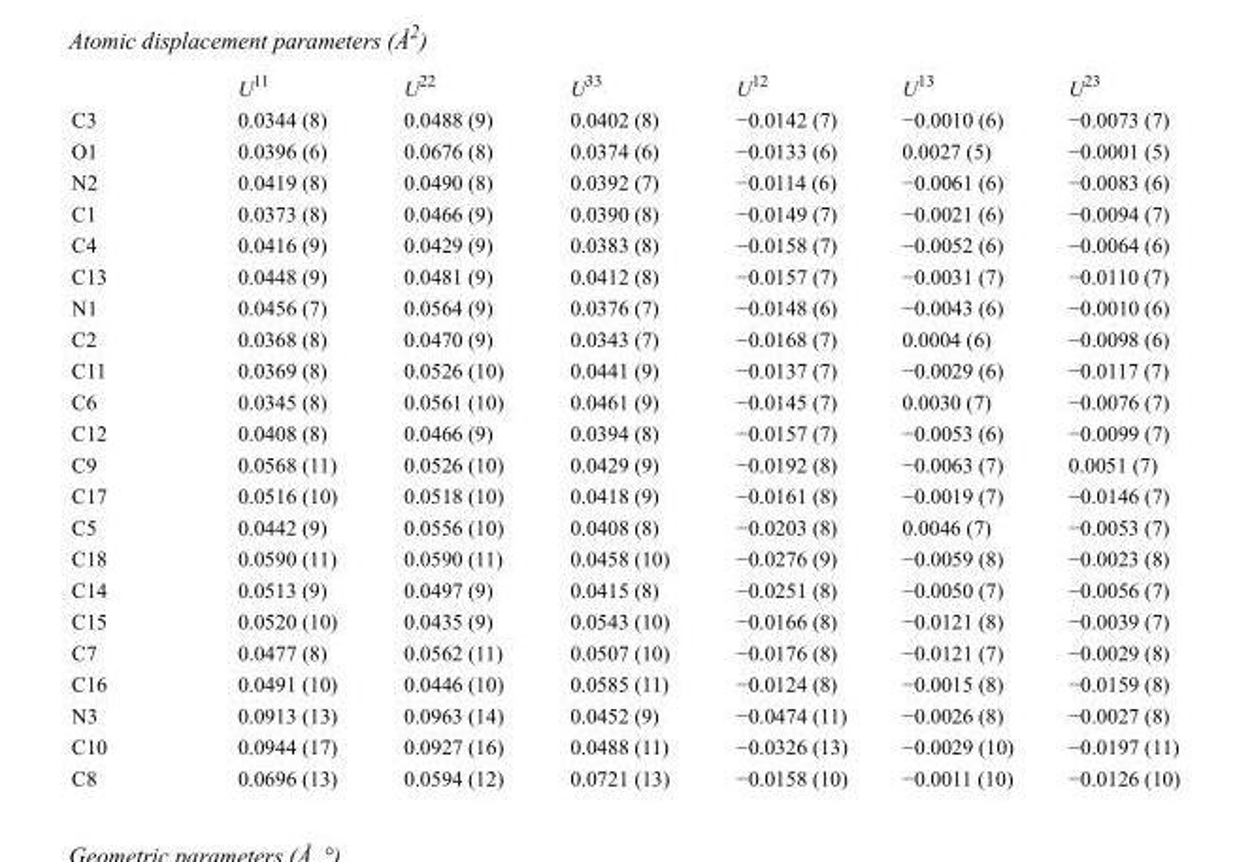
<table><thead><tr><td></td><td>U<sup>11</sup></td><td>U<sup>22</sup></td><td>U<sup>33</sup></td><td>U<sup>12</sup></td><td>U<sup>13</sup></td><td>U<sup>23</sup></td></tr></thead><tbody><tr><td>C3</td><td>0.0344 (8)</td><td>0.0488 (9)</td><td>0.0402 (8)</td><td>−0.0142 (7)</td><td>−0.0010 (6)</td><td>−0.0073 (7)</td></tr><tr><td>O1</td><td>0.0396 (6)</td><td>0.0676 (8)</td><td>0.0374 (6)</td><td>−0.0133 (6)</td><td>0.0027 (5)</td><td>−0.0001 (5)</td></tr><tr><td>N2</td><td>0.0419 (8)</td><td>0.0490 (8)</td><td>0.0392 (7)</td><td>−0.0114 (6)</td><td>−0.0061 (6)</td><td>−0.0083 (6)</td></tr><tr><td>C1</td><td>0.0373 (8)</td><td>0.0466 (9)</td><td>0.0390 (8)</td><td>−0.0149 (7)</td><td>−0.0021 (6)</td><td>−0.0094 (7)</td></tr><tr><td>C4</td><td>0.0416 (9)</td><td>0.0429 (9)</td><td>0.0383 (8)</td><td>−0.0158 (7)</td><td>−0.0052 (6)</td><td>−0.0064 (6)</td></tr><tr><td>C13</td><td>0.0448 (9)</td><td>0.0481 (9)</td><td>0.0412 (8)</td><td>−0.0157 (7)</td><td>−0.0031 (7)</td><td>−0.0110 (7)</td></tr><tr><td>N1</td><td>0.0456 (7)</td><td>0.0564 (9)</td><td>0.0376 (7)</td><td>−0.0148 (6)</td><td>−0.0043 (6)</td><td>−0.0010 (6)</td></tr><tr><td>C2</td><td>0.0368 (8)</td><td>0.0470 (9)</td><td>0.0343 (7)</td><td>−0.0168 (7)</td><td>0.0004 (6)</td><td>−0.0098 (6)</td></tr><tr><td>C11</td><td>0.0369 (8)</td><td>0.0526 (10)</td><td>0.0441 (9)</td><td>−0.0137 (7)</td><td>−0.0029 (6)</td><td>−0.0117 (7)</td></tr><tr><td>C6</td><td>0.0345 (8)</td><td>0.0561 (10)</td><td>0.0461 (9)</td><td>−0.0145 (7)</td><td>0.0030 (7)</td><td>−0.0076 (7)</td></tr><tr><td>C12</td><td>0.0408 (8)</td><td>0.0466 (9)</td><td>0.0394 (8)</td><td>−0.0157 (7)</td><td>−0.0053 (6)</td><td>−0.0099 (7)</td></tr><tr><td>C9</td><td>0.0568 (11)</td><td>0.0526 (10)</td><td>0.0429 (9)</td><td>−0.0192 (8)</td><td>−0.0063 (7)</td><td>0.0051 (7)</td></tr><tr><td>C17</td><td>0.0516 (10)</td><td>0.0518 (10)</td><td>0.0418 (9)</td><td>−0.0161 (8)</td><td>−0.0019 (7)</td><td>−0.0146 (7)</td></tr><tr><td>C5</td><td>0.0442 (9)</td><td>0.0556 (10)</td><td>0.0408 (8)</td><td>−0.0203 (8)</td><td>0.0046 (7)</td><td>−0.0053 (7)</td></tr><tr><td>C18</td><td>0.0590 (11)</td><td>0.0590 (11)</td><td>0.0458 (10)</td><td>−0.0276 (9)</td><td>−0.0059 (8)</td><td>−0.0023 (8)</td></tr><tr><td>C14</td><td>0.0513 (9)</td><td>0.0497 (9)</td><td>0.0415 (8)</td><td>−0.0251 (8)</td><td>−0.0050 (7)</td><td>−0.0056 (7)</td></tr><tr><td>C15</td><td>0.0520 (10)</td><td>0.0435 (9)</td><td>0.0543 (10)</td><td>−0.0166 (8)</td><td>−0.0121 (8)</td><td>−0.0039 (7)</td></tr><tr><td>C7</td><td>0.0477 (8)</td><td>0.0562 (11)</td><td>0.0507 (10)</td><td>−0.0176 (8)</td><td>−0.0121 (7)</td><td>−0.0029 (8)</td></tr><tr><td>C16</td><td>0.0491 (10)</td><td>0.0446 (10)</td><td>0.0585 (11)</td><td>−0.0124 (8)</td><td>−0.0015 (8)</td><td>−0.0159 (8)</td></tr><tr><td>N3</td><td>0.0913 (13)</td><td>0.0963 (14)</td><td>0.0452 (9)</td><td>−0.0474 (11)</td><td>−0.0026 (8)</td><td>−0.0027 (8)</td></tr><tr><td>C10</td><td>0.0944 (17)</td><td>0.0927 (16)</td><td>0.0488 (11)</td><td>−0.0326 (13)</td><td>−0.0029 (10)</td><td>−0.0197 (11)</td></tr><tr><td>C8</td><td>0.0696 (13)</td><td>0.0594 (12)</td><td>0.0721 (13)</td><td>−0.0158 (10)</td><td>−0.0011 (10)</td><td>−0.0126 (10)</td></tr></tbody></table>